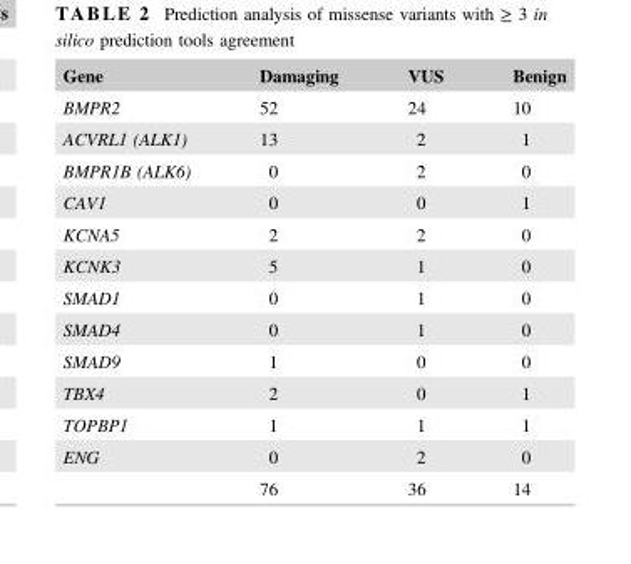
<table><thead><tr><td>Gene</td><td>Damaging</td><td>VUS</td><td>Benign</td></tr></thead><tbody><tr><td>BMPR2</td><td>52</td><td>24</td><td>10</td></tr><tr><td>ACVRL1 (ALK1)</td><td>13</td><td>2</td><td>1</td></tr><tr><td>BMPR1B (ALK6)</td><td>0</td><td>2</td><td>0</td></tr><tr><td>CAV1</td><td>0</td><td>0</td><td>1</td></tr><tr><td>KCNA5</td><td>2</td><td>2</td><td>0</td></tr><tr><td>KCNK3</td><td>5</td><td>1</td><td>0</td></tr><tr><td>SMAD1</td><td>0</td><td>1</td><td>0</td></tr><tr><td>SMAD4</td><td>0</td><td>1</td><td>0</td></tr><tr><td>SMAD9</td><td>1</td><td>0</td><td>0</td></tr><tr><td>TBX4</td><td>2</td><td>0</td><td>1</td></tr><tr><td>TOPBP1</td><td>1</td><td>1</td><td>1</td></tr><tr><td rowspan="2">ENG</td><td>0</td><td>2</td><td>0</td></tr><tr><td>76</td><td>36</td><td>14</td></tr></tbody></table>